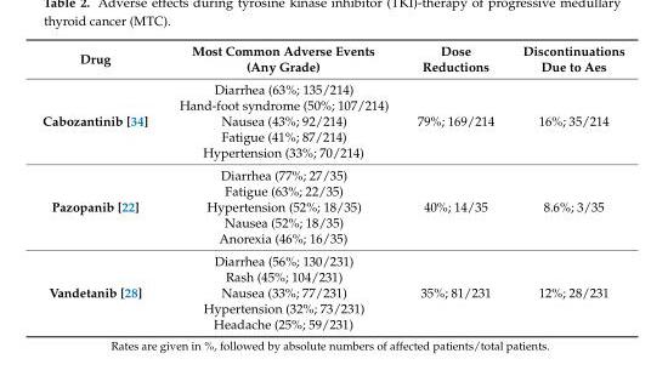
<table><thead><tr><td>Drug</td><td>Most Common Adverse Events (Any Grade)</td><td>Dose Reductions</td><td>Discontinuations Due to Aes</td></tr></thead><tbody><tr><td>Cabozantinib [34]</td><td>Diarrhea (63%; 135/214) Hand-foot syndrome (50%; 107/214) Nausea (43%; 92/214) Fatigue (41%; 87/214) Hypertension (33%; 70/214)</td><td>79%; 169/214</td><td>16%; 35/214</td></tr><tr><td>Pazopanib [22]</td><td>Diarrhea (77%; 27/35) Fatigue (63%; 22/35) Hypertension (52%; 18/35) Nausea (52%; 18/35) Anorexia (46%; 16/35)</td><td>40%; 14/35</td><td>8.6%; 3/35</td></tr><tr><td>Vandetanib [28]</td><td>Diarrhea (56%; 130/231) Rash (45%; 104/231) Nausea (33%; 77/231) Hypertension (32%; 73/231) Headache (25%; 59/231)</td><td>35%; 81/231</td><td>12%; 28/231</td></tr></tbody></table>